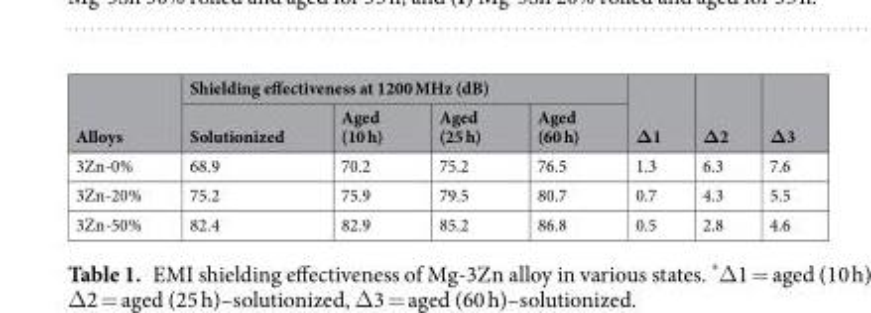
<table><thead><tr><td rowspan="2">Alloys</td><td colspan="4">Shielding effectiveness at 1200 MHz (dB)</td><td rowspan="2">Δ1</td><td rowspan="2">Δ2</td><td rowspan="2">Δ3</td></tr><tr><td>Solutionized</td><td>Aged (10 h)</td><td>Aged (25 h)</td><td>Aged (60 h)</td></tr></thead><tbody><tr><td>3Zn-0%</td><td>68.9</td><td>70.2</td><td>75.2</td><td>76.5</td><td>1.3</td><td>6.3</td><td>7.6</td></tr><tr><td>3Zn-20%</td><td>75.2</td><td>75.9</td><td>79.5</td><td>80.7</td><td>0.7</td><td>4.3</td><td>5.5</td></tr><tr><td>3Zn-50%</td><td>82.4</td><td>82.9</td><td>85.2</td><td>86.8</td><td>0.5</td><td>2.8</td><td>4.6</td></tr></tbody></table>